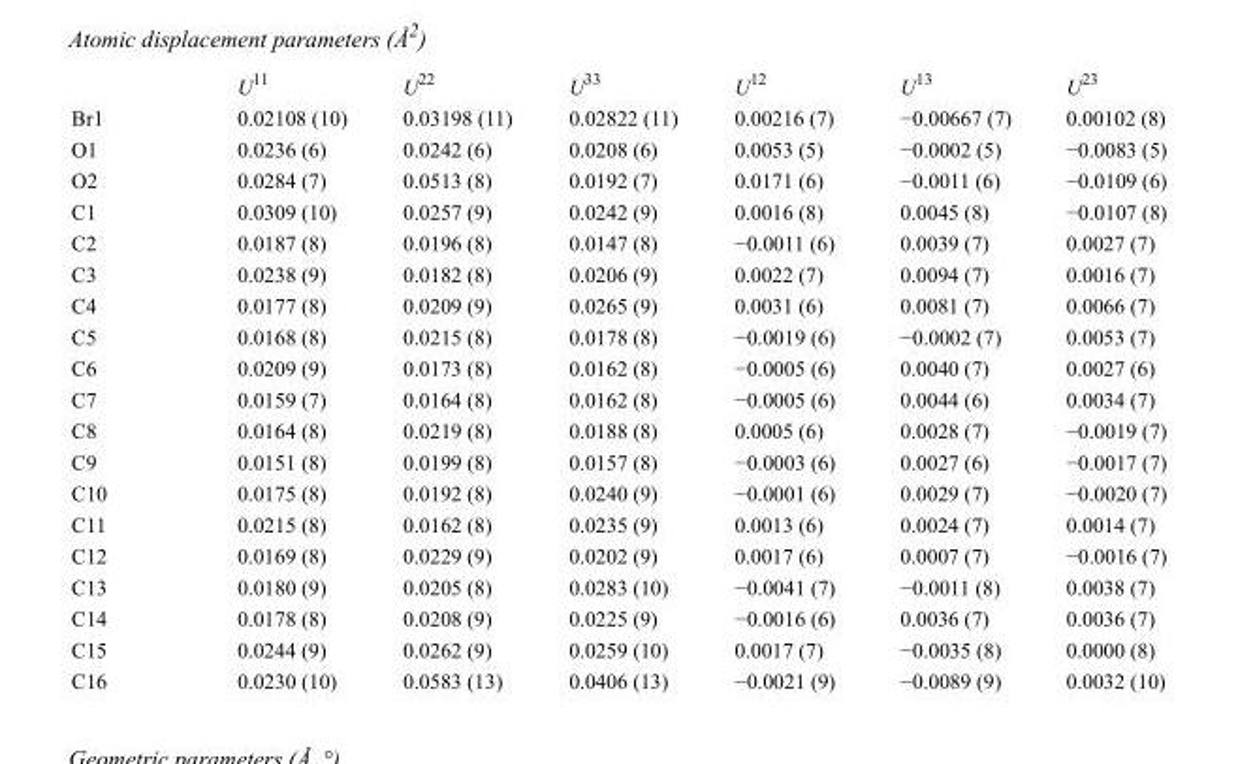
<table><thead><tr><td></td><td>U<sup>11</sup></td><td>U<sup>22</sup></td><td>U<sup>33</sup></td><td>U<sup>12</sup></td><td>U<sup>13</sup></td><td>U<sup>23</sup></td></tr></thead><tbody><tr><td>Br1</td><td>0.02108 (10)</td><td>0.03198 (11)</td><td>0.02822 (11)</td><td>0.00216 (7)</td><td>−0.00667 (7)</td><td>0.00102 (8)</td></tr><tr><td>O1</td><td>0.0236 (6)</td><td>0.0242 (6)</td><td>0.0208 (6)</td><td>0.0053 (5)</td><td>−0.0002 (5)</td><td>−0.0083 (5)</td></tr><tr><td>O2</td><td>0.0284 (7)</td><td>0.0513 (8)</td><td>0.0192 (7)</td><td>0.0171 (6)</td><td>−0.0011 (6)</td><td>−0.0109 (6)</td></tr><tr><td>C1</td><td>0.0309 (10)</td><td>0.0257 (9)</td><td>0.0242 (9)</td><td>0.0016 (8)</td><td>0.0045 (8)</td><td>−0.0107 (8)</td></tr><tr><td>C2</td><td>0.0187 (8)</td><td>0.0196 (8)</td><td>0.0147 (8)</td><td>−0.0011 (6)</td><td>0.0039 (7)</td><td>0.0027 (7)</td></tr><tr><td>C3</td><td>0.0238 (9)</td><td>0.0182 (8)</td><td>0.0206 (9)</td><td>0.0022 (7)</td><td>0.0094 (7)</td><td>0.0016 (7)</td></tr><tr><td>C4</td><td>0.0177 (8)</td><td>0.0209 (9)</td><td>0.0265 (9)</td><td>0.0031 (6)</td><td>0.0081 (7)</td><td>0.0066 (7)</td></tr><tr><td>C5</td><td>0.0168 (8)</td><td>0.0215 (8)</td><td>0.0178 (8)</td><td>−0.0019 (6)</td><td>−0.0002 (7)</td><td>0.0053 (7)</td></tr><tr><td>C6</td><td>0.0209 (9)</td><td>0.0173 (8)</td><td>0.0162 (8)</td><td>−0.0005 (6)</td><td>0.0040 (7)</td><td>0.0027 (6)</td></tr><tr><td>C7</td><td>0.0159 (7)</td><td>0.0164 (8)</td><td>0.0162 (8)</td><td>−0.0005 (6)</td><td>0.0044 (6)</td><td>0.0034 (7)</td></tr><tr><td>C8</td><td>0.0164 (8)</td><td>0.0219 (8)</td><td>0.0188 (8)</td><td>0.0005 (6)</td><td>0.0028 (7)</td><td>−0.0019 (7)</td></tr><tr><td>C9</td><td>0.0151 (8)</td><td>0.0199 (8)</td><td>0.0157 (8)</td><td>−0.0003 (6)</td><td>0.0027 (6)</td><td>−0.0017 (7)</td></tr><tr><td>C10</td><td>0.0175 (8)</td><td>0.0192 (8)</td><td>0.0240 (9)</td><td>−0.0001 (6)</td><td>0.0029 (7)</td><td>−0.0020 (7)</td></tr><tr><td>C11</td><td>0.0215 (8)</td><td>0.0162 (8)</td><td>0.0235 (9)</td><td>0.0013 (6)</td><td>0.0024 (7)</td><td>0.0014 (7)</td></tr><tr><td>C12</td><td>0.0169 (8)</td><td>0.0229 (9)</td><td>0.0202 (9)</td><td>0.0017 (6)</td><td>0.0007 (7)</td><td>−0.0016 (7)</td></tr><tr><td>C13</td><td>0.0180 (9)</td><td>0.0205 (8)</td><td>0.0283 (10)</td><td>−0.0041 (7)</td><td>−0.0011 (8)</td><td>0.0038 (7)</td></tr><tr><td>C14</td><td>0.0178 (8)</td><td>0.0208 (9)</td><td>0.0225 (9)</td><td>−0.0016 (6)</td><td>0.0036 (7)</td><td>0.0036 (7)</td></tr><tr><td>C15</td><td>0.0244 (9)</td><td>0.0262 (9)</td><td>0.0259 (10)</td><td>0.0017 (7)</td><td>−0.0035 (8)</td><td>0.0000 (8)</td></tr><tr><td>C16</td><td>0.0230 (10)</td><td>0.0583 (13)</td><td>0.0406 (13)</td><td>−0.0021 (9)</td><td>−0.0089 (9)</td><td>0.0032 (10)</td></tr></tbody></table>